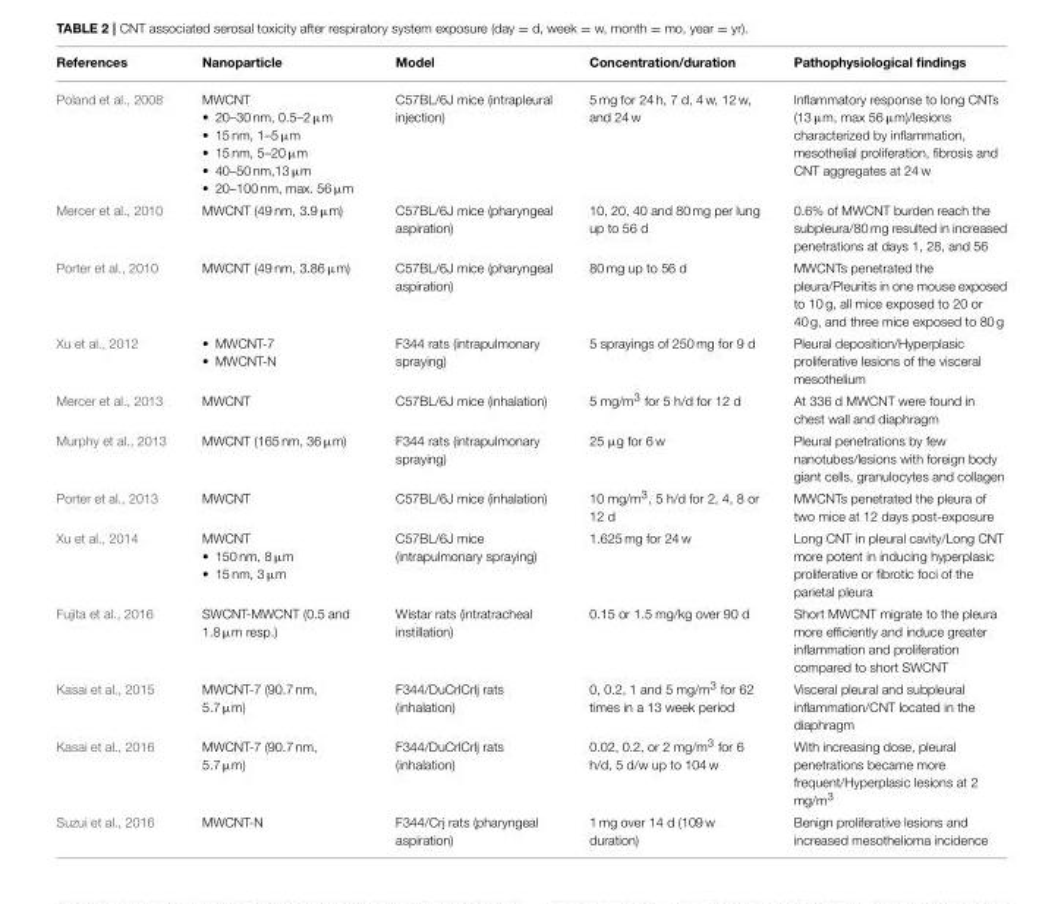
<table><thead><tr><td>References</td><td>Nanoparticle</td><td>Model</td><td>Concentration/duration</td><td>Pathophysiological findings</td></tr></thead><tbody><tr><td>Poland et al., 2008</td><td>MWCNT • 20–30 nm, 0.5–2 µm • 15 nm, 1–5 µm • 15 nm, 5–20 µm • 40–50 nm,13 µm • 20–100 nm, max. 56 µm</td><td>C57BL/6J mice (intrapleural injection)</td><td>5 mg for 24 h, 7 d, 4 w, 12 w, and 24 w</td><td>Inflammatory response to long CNTs (13 µm, max 56 µm)/lesions characterized by inflammation, mesothelial proliferation, fibrosis and CNT aggregates at 24 w</td></tr><tr><td>Mercer et al., 2010</td><td>MWCNT (49 nm, 3.9 µm)</td><td>C57BL/6J mice (pharyngeal aspiration)</td><td>10, 20, 40 and 80 mg per lung up to 56 d</td><td>0.6% of MWCNT burden reach the subpleura/80 mg resulted in increased penetrations at days 1, 28, and 56</td></tr><tr><td>Porter et al., 2010</td><td>MWCNT (49 nm, 3.86 µm)</td><td>C57BL/6J mice (pharyngeal aspiration)</td><td>80 mg up to 56 d</td><td>MWCNTs penetrated the pleura/Pleuritis in one mouse exposed to 10 g, all mice exposed to 20 or 40 g, and three mice exposed to 80 g</td></tr><tr><td>Xu et al., 2012</td><td>• MWCNT-7 • MWCNT-N</td><td>F344 rats (intrapulmonary spraying)</td><td>5 sprayings of 250 mg for 9 d</td><td>Pleural deposition/Hyperplasic proliferative lesions of the visceral mesothelium</td></tr><tr><td>Mercer et al., 2013</td><td>MWCNT</td><td>C57BL/6J mice (inhalation)</td><td>5 mg/m<sup>3</sup> for 5 h/d for 12 d</td><td>At 336 d MWCNT were found in chest wall and diaphragm</td></tr><tr><td>Murphy et al., 2013</td><td>MWCNT (165 nm, 36 µm)</td><td>F344 rats (intrapulmonary spraying)</td><td>25 µg for 6 w</td><td>Pleural penetrations by few nanotubes/lesions with foreign body giant cells, granulocytes and collagen</td></tr><tr><td>Porter et al., 2013</td><td>MWCNT</td><td>C57BL/6J mice (inhalation)</td><td>10 mg/m<sup>3</sup>, 5 h/d for 2, 4, 8 or 12 d</td><td>MWCNTs penetrated the pleura of two mice at 12 days post-exposure</td></tr><tr><td>Xu et al., 2014</td><td>MWCNT • 150 nm, 8 µm • 15 nm, 3 µm</td><td>C57BL/6J mice (intrapulmonary spraying)</td><td>1.625 mg for 24 w</td><td>Long CNT in pleural cavity/Long CNT more potent in inducing hyperplasic proliferative or fibrotic foci of the parietal pleura</td></tr><tr><td>Fujita et al., 2016</td><td>SWCNT-MWCNT (0.5 and 1.8 µm resp.)</td><td>Wistar rats (intratracheal instillation)</td><td>0.15 or 1.5 mg/kg over 90 d</td><td>Short MWCNT migrate to the pleura more efficiently and induce greater inflammation and proliferation compared to short SWCNT</td></tr><tr><td>Kasai et al., 2015</td><td>MWCNT-7 (90.7 nm, 5.7 µm)</td><td>F344/DuCrlCrlj rats (inhalation)</td><td>0, 0.2, 1 and 5 mg/m<sup>3</sup> for 62 times in a 13 week period</td><td>Visceral pleural and subpleural inflammation/CNT located in the diaphragm</td></tr><tr><td>Kasai et al., 2016</td><td>MWCNT-7 (90.7 nm, 5.7 µm)</td><td>F344/DuCrlCrlj rats (inhalation)</td><td>0.02, 0.2, or 2 mg/m<sup>3</sup> for 6 h/d, 5 d/w up to 104 w</td><td>With increasing dose, pleural penetrations became more frequent/Hyperplasic lesions at 2 mg/m<sup>3</sup></td></tr><tr><td>Suzui et al., 2016</td><td>MWCNT-N</td><td>F344/Crj rats (pharyngeal aspiration)</td><td>1 mg over 14 d (109 w duration)</td><td>Benign proliferative lesions and increased mesothelioma incidence</td></tr></tbody></table>